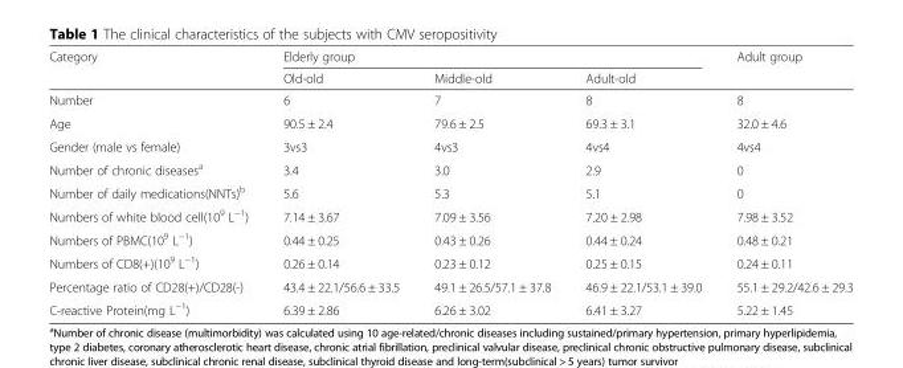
<table><thead><tr><td rowspan="2">Category</td><td colspan="3">Elderly group</td><td rowspan="2">Adult group</td></tr><tr><td>Old-old</td><td>Middle-old</td><td>Adult-old</td></tr></thead><tbody><tr><td>Number</td><td>6</td><td>7</td><td>8</td><td>8</td></tr><tr><td>Age</td><td>90.5 ± 2.4</td><td>79.6 ± 2.5</td><td>69.3 ± 3.1</td><td>32.0 ± 4.6</td></tr><tr><td>Gender (male vs female)</td><td>3vs3</td><td>4vs3</td><td>4vs4</td><td>4vs4</td></tr><tr><td>Number of chronic diseases<sup>a</sup></td><td>3.4</td><td>3.0</td><td>2.9</td><td>0</td></tr><tr><td>Number of daily medications(NNTs)<sup>b</sup></td><td>5.6</td><td>5.3</td><td>5.1</td><td>0</td></tr><tr><td>Numbers of white blood cell(10<sup>9</sup> L<sup>−1</sup>)</td><td>7.14 ± 3.67</td><td>7.09 ± 3.56</td><td>7.20 ± 2.98</td><td>7.98 ± 3.52</td></tr><tr><td>Numbers of PBMC(10<sup>9</sup> L<sup>−1</sup>)</td><td>0.44 ± 0.25</td><td>0.43 ± 0.26</td><td>0.44 ± 0.24</td><td>0.48 ± 0.21</td></tr><tr><td>Numbers of CD8(+)(10<sup>9</sup> L<sup>−1</sup>)</td><td>0.26 ± 0.14</td><td>0.23 ± 0.12</td><td>0.25 ± 0.15</td><td>0.24 ± 0.11</td></tr><tr><td>Percentage ratio of CD28(+)/CD28(-)</td><td>43.4 ± 22.1/56.6 ± 33.5</td><td>49.1 ± 26.5/57.1 ± 37.8</td><td>46.9 ± 22.1/53.1 ± 39.0</td><td>55.1 ± 29.2/42.6 ± 29.3</td></tr><tr><td>C-reactive Protein(mg L<sup>−1</sup>)</td><td>6.39 ± 2.86</td><td>6.26 ± 3.02</td><td>6.41 ± 3.27</td><td>5.22 ± 1.45</td></tr></tbody></table>